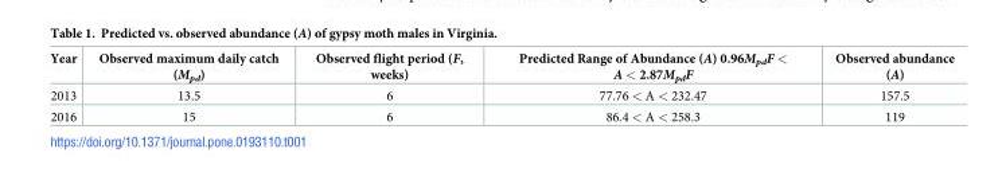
<table><thead><tr><td>Year</td><td>Observed maximum daily catch (M<sub>pd</sub>)</td><td>Observed flight period (F, weeks)</td><td>Predicted Range of Abundance (A) 0.96M<sub>pd</sub>F &lt; A &lt; 2.87M<sub>pd</sub>F</td><td>Observed abundance (A)</td></tr></thead><tbody><tr><td>2013</td><td>13.5</td><td>6</td><td>77.76 &lt; A &lt; 232.47</td><td>157.5</td></tr><tr><td>2016</td><td>15</td><td>6</td><td>86.4 &lt; A &lt; 258.3</td><td>119</td></tr></tbody></table>